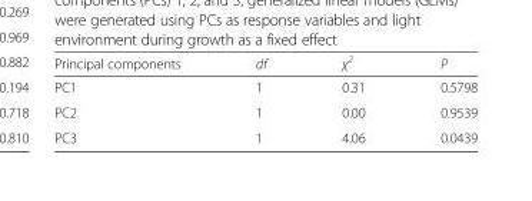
<table><thead><tr><td>Principal components</td><td>df</td><td>χ<sup>2</sup></td><td>P</td></tr></thead><tbody><tr><td>PC1</td><td>1</td><td>0.31</td><td>0.5798</td></tr><tr><td>PC2</td><td>1</td><td>0.00</td><td>0.9539</td></tr><tr><td>PC3</td><td>1</td><td>4.06</td><td>0.0439</td></tr></tbody></table>